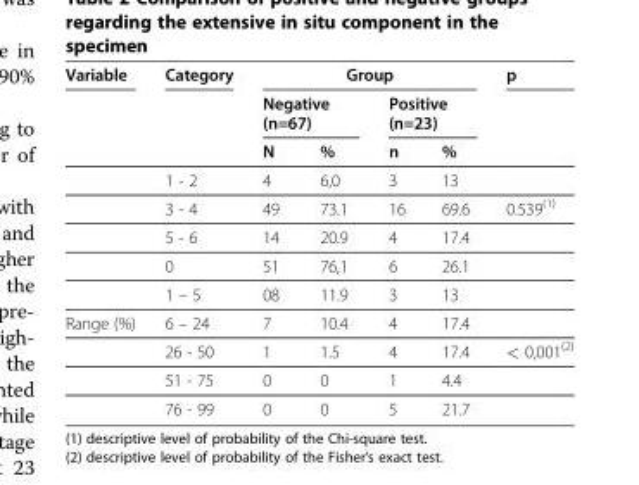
<table><thead><tr><td rowspan="3">Variable</td><td rowspan="3">Category</td><td colspan="4">Group</td><td rowspan="3">p</td></tr><tr><td colspan="2">Negative (n=67)</td><td colspan="2">Positive (n=23)</td></tr><tr><td>N</td><td>%</td><td>n</td><td>%</td></tr></thead><tbody><tr><td></td><td>1 - 2</td><td>4</td><td>6,0</td><td>3</td><td>13</td><td></td></tr><tr><td></td><td>3 - 4</td><td>49</td><td>73.1</td><td>16</td><td>69.6</td><td>0.539<sup>(1)</sup></td></tr><tr><td></td><td>5 - 6</td><td>14</td><td>20.9</td><td>4</td><td>17.4</td><td></td></tr><tr><td></td><td>0</td><td>51</td><td>76,1</td><td>6</td><td>26.1</td><td></td></tr><tr><td></td><td>1 – 5</td><td>08</td><td>11.9</td><td>3</td><td>13</td><td></td></tr><tr><td rowspan="4">Range (%)</td><td>6 – 24</td><td>7</td><td>10.4</td><td>4</td><td>17.4</td><td></td></tr><tr><td>26 - 50</td><td>1</td><td>1.5</td><td>4</td><td>17.4</td><td>&lt; 0,001<sup>(2)</sup></td></tr><tr><td>51 - 75</td><td>0</td><td>0</td><td>1</td><td>4.4</td><td></td></tr><tr><td>76 - 99</td><td>0</td><td>0</td><td>5</td><td>21.7</td><td></td></tr></tbody></table>